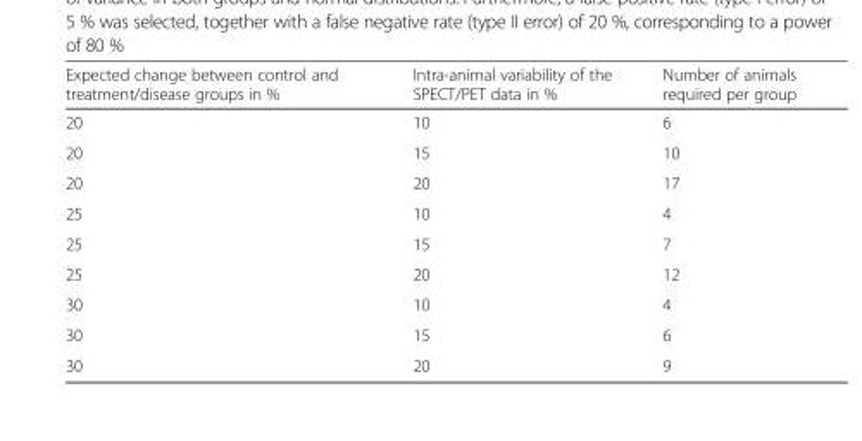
<table><thead><tr><td>Expected change between control and treatment/disease groups in %</td><td>Intra-animal variability of the SPECT/PET data in %</td><td>Number of animals required per group</td></tr></thead><tbody><tr><td>20</td><td>10</td><td>6</td></tr><tr><td>20</td><td>15</td><td>10</td></tr><tr><td>20</td><td>20</td><td>17</td></tr><tr><td>25</td><td>10</td><td>4</td></tr><tr><td>25</td><td>15</td><td>7</td></tr><tr><td>25</td><td>20</td><td>12</td></tr><tr><td>30</td><td>10</td><td>4</td></tr><tr><td>30</td><td>15</td><td>6</td></tr><tr><td>30</td><td>20</td><td>9</td></tr></tbody></table>